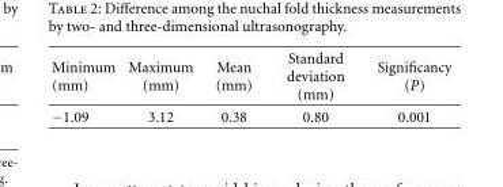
<table><thead><tr><td>Minimum (mm)</td><td>Maximum (mm)</td><td>Mean (mm)</td><td>Standard deviation (mm)</td><td>Significancy (P)</td></tr></thead><tbody><tr><td>−1.09</td><td>3.12</td><td>0.38</td><td>0.80</td><td>0.001</td></tr></tbody></table>